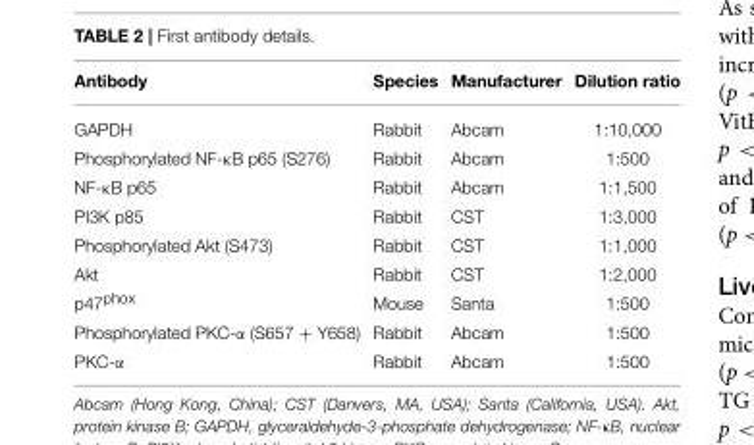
<table><thead><tr><td>Antibody</td><td>Species</td><td>Manufacturer</td><td>Dilution ratio</td></tr></thead><tbody><tr><td>GAPDH</td><td>Rabbit</td><td>Abcam</td><td>1:10,000</td></tr><tr><td>Phosphorylated NF-κB p65 (S276)</td><td>Rabbit</td><td>Abcam</td><td>1:500</td></tr><tr><td>NF-κB p65</td><td>Rabbit</td><td>Abcam</td><td>1:1,500</td></tr><tr><td>PI3K p85</td><td>Rabbit</td><td>CST</td><td>1:3,000</td></tr><tr><td>Phosphorylated Akt (S473)</td><td>Rabbit</td><td>CST</td><td>1:1,000</td></tr><tr><td>Akt</td><td>Rabbit</td><td>CST</td><td>1:2,000</td></tr><tr><td>p47<sup>phox</sup></td><td>Mouse</td><td>Santa</td><td>1:500</td></tr><tr><td>Phosphorylated PKC-α (S657 + Y658)</td><td>Rabbit</td><td>Abcam</td><td>1:500</td></tr><tr><td>PKC-α</td><td>Rabbit</td><td>Abcam</td><td>1:500</td></tr></tbody></table>